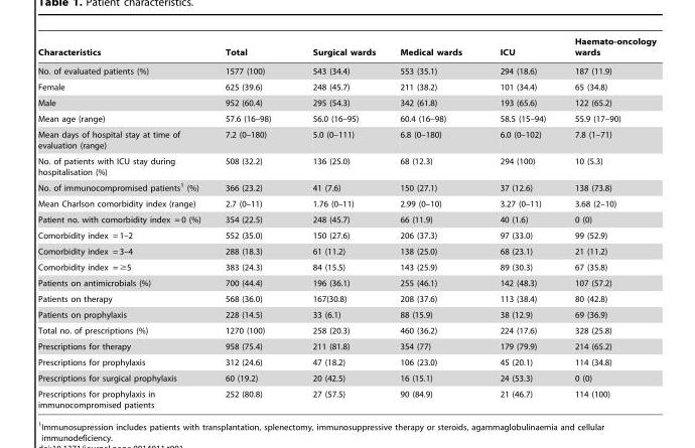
<table><thead><tr><td>Characteristics</td><td>Total</td><td>Surgical wards</td><td>Medical wards</td><td>ICU</td><td>Haemato-oncology wards</td></tr></thead><tbody><tr><td>No. of evaluated patients (%)</td><td>1577 (100)</td><td>543 (34.4)</td><td>553 (35.1)</td><td>294 (18.6)</td><td>187 (11.9)</td></tr><tr><td>Female</td><td>625 (39.6)</td><td>248 (45.7)</td><td>211 (38.2)</td><td>101 (34.4)</td><td>65 (34.8)</td></tr><tr><td>Male</td><td>952 (60.4)</td><td>295 (54.3)</td><td>342 (61.8)</td><td>193 (65.6)</td><td>122 (65.2)</td></tr><tr><td>Mean age (range)</td><td>57.6 (16–98)</td><td>56.0 (16–95)</td><td>60.4 (16–98)</td><td>58.5 (15–94)</td><td>55.9 (17–90)</td></tr><tr><td>Mean days of hospital stay at time of evaluation (range)</td><td>7.2 (0–180)</td><td>5.0 (0–111)</td><td>6.8 (0–180)</td><td>6.0 (0–102)</td><td>7.8 (1–71)</td></tr><tr><td>No. of patients with ICU stay during hospitalisation (%)</td><td>508 (32.2)</td><td>136 (25.0)</td><td>68 (12.3)</td><td>294 (100)</td><td>10 (5.3)</td></tr><tr><td>No. of immunocompromised patients<sup>1</sup> (%)</td><td>366 (23.2)</td><td>41 (7.6)</td><td>150 (27.1)</td><td>37 (12.6)</td><td>138 (73.8)</td></tr><tr><td>Mean Charlson comorbidity index (range)</td><td>2.7 (0–11)</td><td>1.76 (0–11)</td><td>2.99 (0–10)</td><td>3.27 (0–11)</td><td>3.68 (2–10)</td></tr><tr><td>Patient no. with comorbidity index = 0 (%)</td><td>354 (22.5)</td><td>248 (45.7)</td><td>66 (11.9)</td><td>40 (1.6)</td><td>0 (0)</td></tr><tr><td>Comorbidity index = 1–2</td><td>552 (35.0)</td><td>150 (27.6)</td><td>206 (37.3)</td><td>97 (33.0)</td><td>99 (52.9)</td></tr><tr><td>Comorbidity index = 3–4</td><td>288 (18.3)</td><td>61 (11.2)</td><td>138 (25.0)</td><td>68 (23.1)</td><td>21 (11.2)</td></tr><tr><td>Comorbidity index = ≥5</td><td>383 (24.3)</td><td>84 (15.5)</td><td>143 (25.9)</td><td>89 (30.3)</td><td>67 (35.8)</td></tr><tr><td>Patients on antimicrobials (%)</td><td>700 (44.4)</td><td>196 (36.1)</td><td>255 (46.1)</td><td>142 (48.3)</td><td>107 (57.2)</td></tr><tr><td>Patients on therapy</td><td>568 (36.0)</td><td>167(30.8)</td><td>208 (37.6)</td><td>113 (38.4)</td><td>80 (42.8)</td></tr><tr><td>Patients on prophylaxis</td><td>228 (14.5)</td><td>33 (6.1)</td><td>88 (15.9)</td><td>38 (12.9)</td><td>69 (36.9)</td></tr><tr><td>Total no. of prescriptions (%)</td><td>1270 (100)</td><td>258 (20.3)</td><td>460 (36.2)</td><td>224 (17.6)</td><td>328 (25.8)</td></tr><tr><td>Prescriptions for therapy</td><td>958 (75.4)</td><td>211 (81.8)</td><td>354 (77)</td><td>179 (79.9)</td><td>214 (65.2)</td></tr><tr><td>Prescriptions for prophylaxis</td><td>312 (24.6)</td><td>47 (18.2)</td><td>106 (23.0)</td><td>45 (20.1)</td><td>114 (34.8)</td></tr><tr><td>Prescriptions for surgical prophylaxis</td><td>60 (19.2)</td><td>20 (42.5)</td><td>16 (15.1)</td><td>24 (53.3)</td><td>0 (0)</td></tr><tr><td>Prescriptions for prophylaxis in immunocompromised patients</td><td>252 (80.8)</td><td>27 (57.5)</td><td>90 (84.9)</td><td>21 (46.7)</td><td>114 (100)</td></tr></tbody></table>